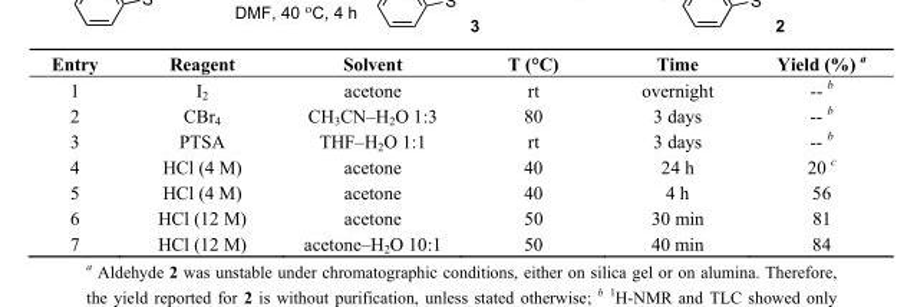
<table><thead><tr><td>Entry</td><td>Reagent</td><td>Solvent</td><td>T (°C)</td><td>Time</td><td>Yield (%) <sup>a</sup></td></tr></thead><tbody><tr><td>1</td><td>I<sub>2</sub></td><td>acetone</td><td>rt</td><td>overnight</td><td>-- <sup>b</sup></td></tr><tr><td>2</td><td>CBr<sub>4</sub></td><td>CH<sub>3</sub>CN–H<sub>2</sub>O 1:3</td><td>80</td><td>3 days</td><td>-- <sup>b</sup></td></tr><tr><td>3</td><td>PTSA</td><td>THF–H<sub>2</sub>O 1:1</td><td>rt</td><td>3 days</td><td>-- <sup>b</sup></td></tr><tr><td>4</td><td>HCl (4 M)</td><td>acetone</td><td>40</td><td>24 h</td><td>20 <sup>c</sup></td></tr><tr><td>5</td><td>HCl (4 M)</td><td>acetone</td><td>40</td><td>4 h</td><td>56</td></tr><tr><td>6</td><td>HCl (12 M)</td><td>acetone</td><td>50</td><td>30 min</td><td>81</td></tr><tr><td>7</td><td>HCl (12 M)</td><td>acetone–H<sub>2</sub>O 10:1</td><td>50</td><td>40 min</td><td>84</td></tr></tbody></table>